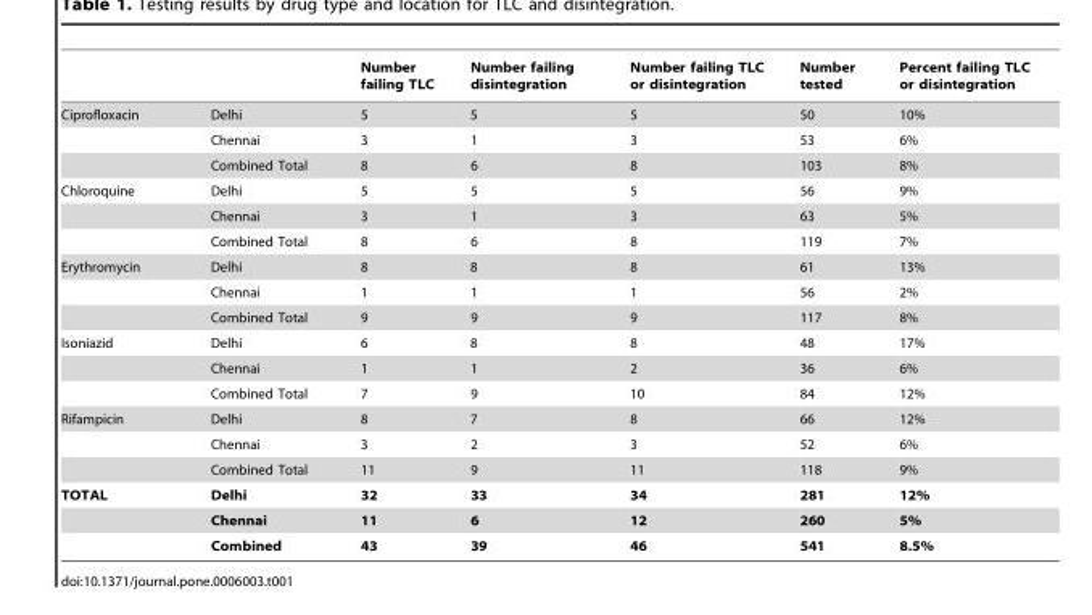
<table><thead><tr><td></td><td></td><td>Number failing TLC</td><td>Number failing disintegration</td><td>Number failing TLC or disintegration</td><td>Number tested</td><td>Percent failing TLC or disintegration</td></tr></thead><tbody><tr><td rowspan="3">Ciprofloxacin</td><td>Delhi</td><td>5</td><td>5</td><td>5</td><td>50</td><td>10%</td></tr><tr><td>Chennai</td><td>3</td><td>1</td><td>3</td><td>53</td><td>6%</td></tr><tr><td>Combined Total</td><td>8</td><td>6</td><td>8</td><td>103</td><td>8%</td></tr><tr><td rowspan="3">Chloroquine</td><td>Delhi</td><td>5</td><td>5</td><td>5</td><td>56</td><td>9%</td></tr><tr><td>Chennai</td><td>3</td><td>1</td><td>3</td><td>63</td><td>5%</td></tr><tr><td>Combined Total</td><td>8</td><td>6</td><td>8</td><td>119</td><td>7%</td></tr><tr><td rowspan="3">Erythromycin</td><td>Delhi</td><td>8</td><td>8</td><td>8</td><td>61</td><td>13%</td></tr><tr><td>Chennai</td><td>1</td><td>1</td><td>1</td><td>56</td><td>2%</td></tr><tr><td>Combined Total</td><td>9</td><td>9</td><td>9</td><td>117</td><td>8%</td></tr><tr><td rowspan="3">Isoniazid</td><td>Delhi</td><td>6</td><td>8</td><td>8</td><td>48</td><td>17%</td></tr><tr><td>Chennai</td><td>1</td><td>1</td><td>2</td><td>36</td><td>6%</td></tr><tr><td>Combined Total</td><td>7</td><td>9</td><td>10</td><td>84</td><td>12%</td></tr><tr><td rowspan="3">Rifampicin</td><td>Delhi</td><td>8</td><td>7</td><td>8</td><td>66</td><td>12%</td></tr><tr><td>Chennai</td><td>3</td><td>2</td><td>3</td><td>52</td><td>6%</td></tr><tr><td>Combined Total</td><td>11</td><td>9</td><td>11</td><td>118</td><td>9%</td></tr><tr><td rowspan="3">TOTAL</td><td>Delhi</td><td>32</td><td>33</td><td>34</td><td>281</td><td>12%</td></tr><tr><td>Chennai</td><td>11</td><td>6</td><td>12</td><td>260</td><td>5%</td></tr><tr><td>Combined</td><td>43</td><td>39</td><td>46</td><td>541</td><td>8.5%</td></tr></tbody></table>